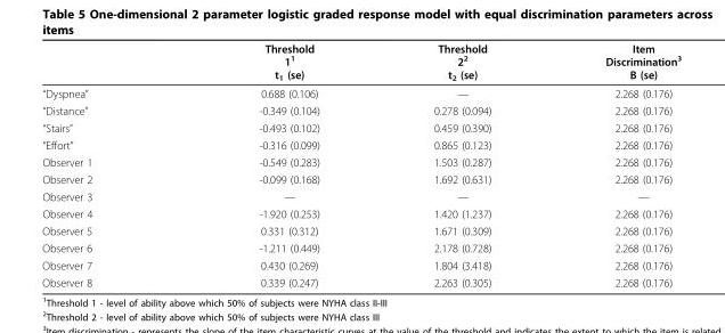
<table><thead><tr><td></td><td>Threshold 1<sup>1</sup> t<sub>1</sub> (se)</td><td>Threshold 2<sup>2</sup> t<sub>2</sub> (se)</td><td>Item Discrimination<sup>3</sup> Β (se)</td></tr></thead><tbody><tr><td>“Dyspnea”</td><td>0.688 (0.106)</td><td>—</td><td>2.268 (0.176)</td></tr><tr><td>“Distance”</td><td>-0.349 (0.104)</td><td>0.278 (0.094)</td><td>2.268 (0.176)</td></tr><tr><td>“Stairs”</td><td>-0.493 (0.102)</td><td>0.459 (0.390)</td><td>2.268 (0.176)</td></tr><tr><td>“Effort”</td><td>-0.316 (0.099)</td><td>0.865 (0.123)</td><td>2.268 (0.176)</td></tr><tr><td>Observer 1</td><td>-0.549 (0.283)</td><td>1.503 (0.287)</td><td>2.268 (0.176)</td></tr><tr><td>Observer 2</td><td>-0.099 (0.168)</td><td>1.692 (0.631)</td><td>2.268 (0.176)</td></tr><tr><td>Observer 3</td><td>—</td><td>—</td><td>—</td></tr><tr><td>Observer 4</td><td>-1.920 (0.253)</td><td>1.420 (1.237)</td><td>2.268 (0.176)</td></tr><tr><td>Observer 5</td><td>0.331 (0.312)</td><td>1.671 (0.309)</td><td>2.268 (0.176)</td></tr><tr><td>Observer 6</td><td>-1.211 (0.449)</td><td>2.178 (0.728)</td><td>2.268 (0.176)</td></tr><tr><td>Observer 7</td><td>0.430 (0.269)</td><td>1.804 (3.418)</td><td>2.268 (0.176)</td></tr><tr><td>Observer 8</td><td>0.339 (0.247)</td><td>2.263 (0.305)</td><td>2.268 (0.176)</td></tr></tbody></table>